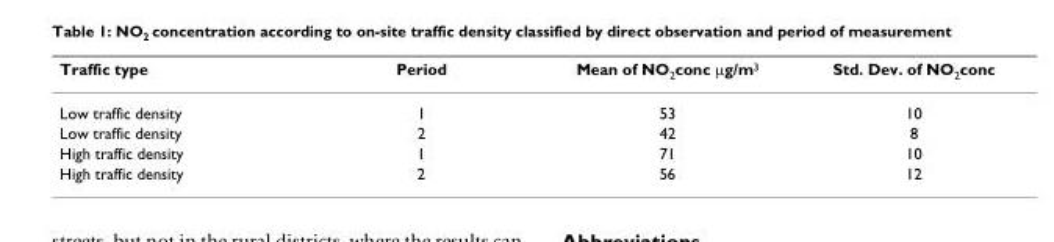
<table><thead><tr><td>Traffic type</td><td>Period</td><td>Mean of NO<sub>2</sub>conc μg/m<sup>3</sup></td><td>Std. Dev. of NO<sub>2</sub>conc</td></tr></thead><tbody><tr><td>Low traffic density</td><td>1</td><td>53</td><td>10</td></tr><tr><td>Low traffic density</td><td>2</td><td>42</td><td>8</td></tr><tr><td>High traffic density</td><td>1</td><td>71</td><td>10</td></tr><tr><td>High traffic density</td><td>2</td><td>56</td><td>12</td></tr></tbody></table>